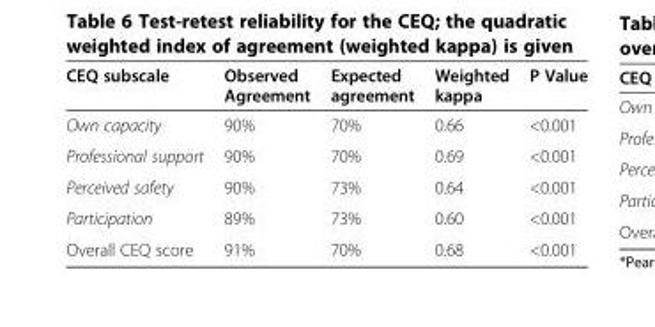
<table><thead><tr><td>CEQ subscale</td><td>Observed Agreement</td><td>Expected agreement</td><td>Weighted kappa</td><td>P Value</td></tr></thead><tbody><tr><td>Own capacity</td><td>90%</td><td>70%</td><td>0.66</td><td>&lt;0.001</td></tr><tr><td>Professional support</td><td>90%</td><td>70%</td><td>0.69</td><td>&lt;0.001</td></tr><tr><td>Perceived safety</td><td>90%</td><td>73%</td><td>0.64</td><td>&lt;0.001</td></tr><tr><td>Participation</td><td>89%</td><td>73%</td><td>0.60</td><td>&lt;0.001</td></tr><tr><td>Overall CEQ score</td><td>91%</td><td>70%</td><td>0.68</td><td>&lt;0.001</td></tr></tbody></table>